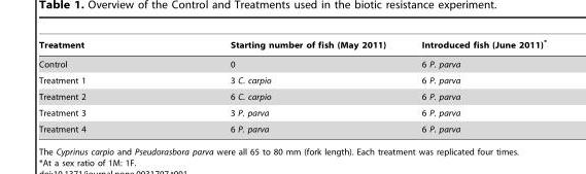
<table><thead><tr><td>Treatment</td><td>Starting number of fish (May 2011)</td><td>Introduced fish (June 2011)*</td></tr></thead><tbody><tr><td>Control</td><td>0</td><td>6 P. parva</td></tr><tr><td>Treatment 1</td><td>3 C. carpio</td><td>6 P. parva</td></tr><tr><td>Treatment 2</td><td>6 C. carpio</td><td>6 P. parva</td></tr><tr><td>Treatment 3</td><td>3 P. parva</td><td>6 P. parva</td></tr><tr><td>Treatment 4</td><td>6 P. parva</td><td>6 P. parva</td></tr></tbody></table>